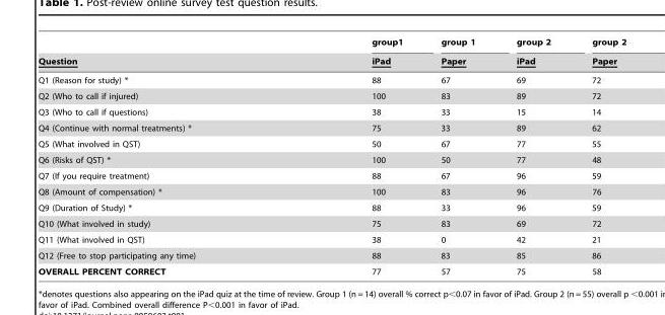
<table><thead><tr><td rowspan="2">Question</td><td rowspan="2">group1 iPad</td><td rowspan="2">group 1 Paper</td><td rowspan="2">group 2 iPad</td><td rowspan="2">group 2 Paper</td></tr><tr></tr></thead><tbody><tr><td>Q1 (Reason for study) *</td><td>88</td><td>67</td><td>69</td><td>72</td></tr><tr><td>Q2 (Who to call if injured)</td><td>100</td><td>83</td><td>89</td><td>72</td></tr><tr><td>Q3 (Who to call if questions)</td><td>38</td><td>33</td><td>15</td><td>14</td></tr><tr><td>Q4 (Continue with normal treatments) *</td><td>75</td><td>33</td><td>89</td><td>62</td></tr><tr><td>Q5 (What involved in QST)</td><td>50</td><td>67</td><td>77</td><td>55</td></tr><tr><td>Q6 (Risks of QST) *</td><td>100</td><td>50</td><td>77</td><td>48</td></tr><tr><td>Q7 (If you require treatment)</td><td>88</td><td>67</td><td>96</td><td>59</td></tr><tr><td>Q8 (Amount of compensation) *</td><td>100</td><td>83</td><td>96</td><td>76</td></tr><tr><td>Q9 (Duration of Study) *</td><td>88</td><td>33</td><td>96</td><td>59</td></tr><tr><td>Q10 (What involved in study)</td><td>75</td><td>83</td><td>69</td><td>72</td></tr><tr><td>Q11 (What involved in QST)</td><td>38</td><td>0</td><td>42</td><td>21</td></tr><tr><td>Q12 (Free to stop participating any time)</td><td>88</td><td>83</td><td>85</td><td>86</td></tr><tr><td>OVERALL PERCENT CORRECT</td><td>77</td><td>57</td><td>75</td><td>58</td></tr></tbody></table>